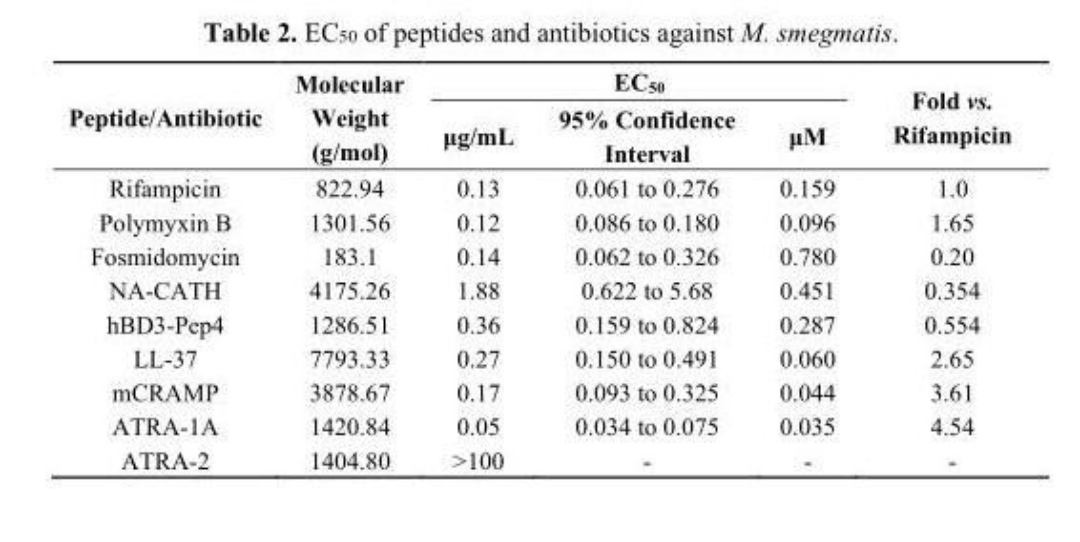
<table><thead><tr><td rowspan="2">Peptide/Antibiotic</td><td rowspan="2">Molecular Weight (g/mol)</td><td colspan="3">EC<sub>50</sub></td><td rowspan="2">Fold vs. Rifampicin</td></tr><tr><td>μg/mL</td><td>95% Confidence Interval</td><td>μM</td></tr></thead><tbody><tr><td>Rifampicin</td><td>822.94</td><td>0.13</td><td>0.061 to 0.276</td><td>0.159</td><td>1.0</td></tr><tr><td>Polymyxin B</td><td>1301.56</td><td>0.12</td><td>0.086 to 0.180</td><td>0.096</td><td>1.65</td></tr><tr><td>Fosmidomycin</td><td>183.1</td><td>0.14</td><td>0.062 to 0.326</td><td>0.780</td><td>0.20</td></tr><tr><td>NA-CATH</td><td>4175.26</td><td>1.88</td><td>0.622 to 5.68</td><td>0.451</td><td>0.354</td></tr><tr><td>hBD3-Pep4</td><td>1286.51</td><td>0.36</td><td>0.159 to 0.824</td><td>0.287</td><td>0.554</td></tr><tr><td>LL-37</td><td>7793.33</td><td>0.27</td><td>0.150 to 0.491</td><td>0.060</td><td>2.65</td></tr><tr><td>mCRAMP</td><td>3878.67</td><td>0.17</td><td>0.093 to 0.325</td><td>0.044</td><td>3.61</td></tr><tr><td>ATRA-1A</td><td>1420.84</td><td>0.05</td><td>0.034 to 0.075</td><td>0.035</td><td>4.54</td></tr><tr><td>ATRA-2</td><td>1404.80</td><td>&gt;100</td><td>-</td><td>-</td><td>-</td></tr></tbody></table>